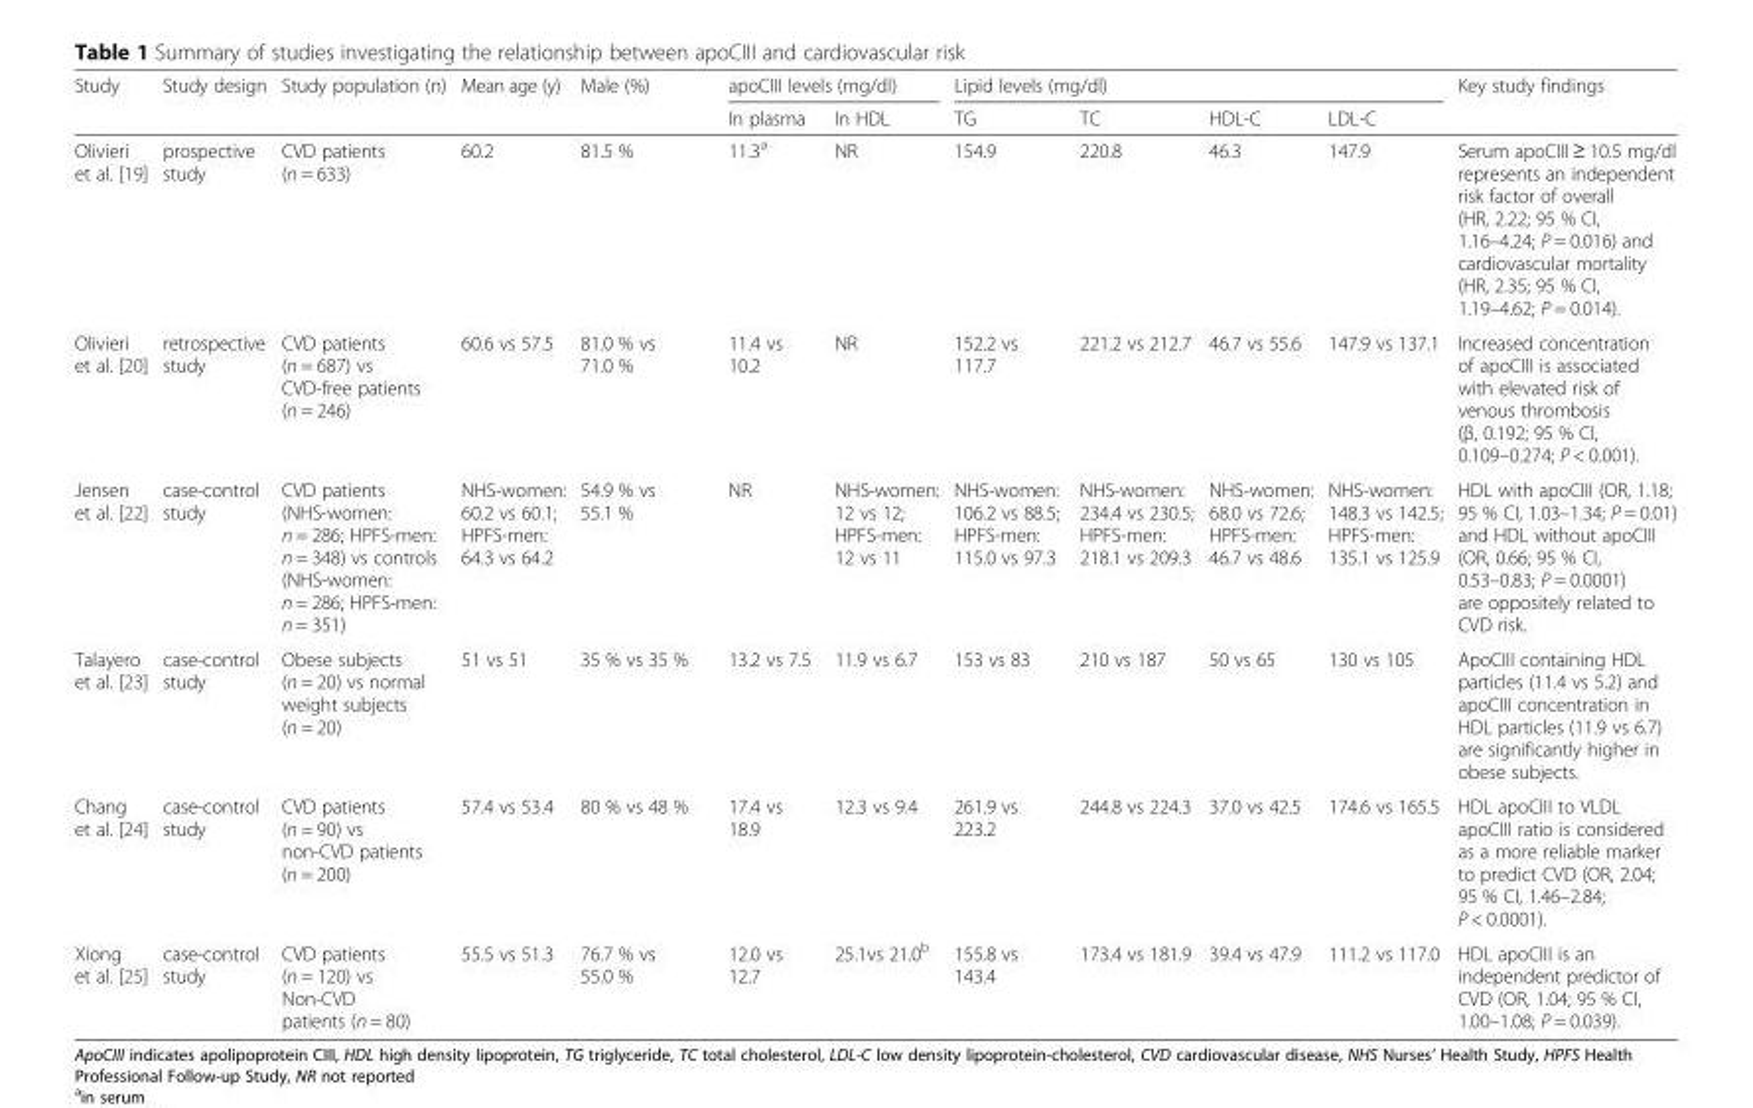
<table><thead><tr><td rowspan="2">Study</td><td rowspan="2">Study design</td><td rowspan="2">Study population (n)</td><td rowspan="2">Mean age (y)</td><td rowspan="2">Male (%)</td><td colspan="2">apoCIII levels (mg/dl)</td><td colspan="4">Lipid levels (mg/dl)</td><td rowspan="2">Key study findings</td></tr><tr><td>In plasma</td><td>In HDL</td><td>TG</td><td>TC</td><td>HDL-C</td><td>LDL-C</td></tr></thead><tbody><tr><td>Olivieri et al. [19]</td><td>prospective study</td><td>CVD patients (n = 633)</td><td>60.2</td><td>81.5 %</td><td>11.3<sup>a</sup></td><td>NR</td><td>154.9</td><td>220.8</td><td>46.3</td><td>147.9</td><td>Serum apoCIII ≥ 10.5 mg/dl represents an independent risk factor of overall (HR, 2.22; 95 % CI, 1.16–4.24; P = 0.016) and cardiovascular mortality (HR, 2.35; 95 % CI, 1.19–4.62; P = 0.014).</td></tr><tr><td>Olivieri et al. [20]</td><td>retrospective study</td><td>CVD patients (n = 687) vs CVD-free patients (n = 246)</td><td>60.6 vs 57.5</td><td>81.0 % vs 71.0 %</td><td>11.4 vs 10.2</td><td>NR</td><td>152.2 vs 117.7</td><td>221.2 vs 212.7</td><td>46.7 vs 55.6</td><td>147.9 vs 137.1</td><td>Increased concentration of apoCIII is associated with elevated risk of venous thrombosis (β, 0.192; 95 % CI, 0.109–0.274; P &lt; 0.001).</td></tr><tr><td>Jensen et al. [22]</td><td>case-control study</td><td>CVD patients (NHS-women: n = 286; HPFS-men: n = 348) vs controls (NHS-women: n = 286; HPFS-men: n = 351)</td><td>NHS-women: 60.2 vs 60.1; HPFS-men: 64.3 vs 64.2</td><td>54.9 % vs 55.1 %</td><td>NR</td><td>NHS-women: 12 vs 12; HPFS-men: 12 vs 11</td><td>NHS-women: 106.2 vs 88.5; HPFS-men: 115.0 vs 97.3</td><td>NHS-women: 234.4 vs 230.5; HPFS-men: 218.1 vs 209.3</td><td>NHS-women: 68.0 vs 72.6; HPFS-men: 46.7 vs 48.6</td><td>NHS-women: 148.3 vs 142.5; HPFS-men: 135.1 vs 125.9</td><td>HDL with apoCIII (OR, 1.18; 95 % CI, 1.03–1.34; P = 0.01) and HDL without apoCIII (OR, 0.66; 95 % CI, 0.53–0.83; P = 0.0001) are oppositely related to CVD risk.</td></tr><tr><td>Talayero et al. [23]</td><td>case-control study</td><td>Obese subjects (n = 20) vs normal weight subjects (n = 20)</td><td>51 vs 51</td><td>35 % vs 35 %</td><td>13.2 vs 7.5</td><td>11.9 vs 6.7</td><td>153 vs 83</td><td>210 vs 187</td><td>50 vs 65</td><td>130 vs 105</td><td>ApoCIII containing HDL particles (11.4 vs 5.2) and apoCIII concentration in HDL particles (11.9 vs 6.7) are significantly higher in obese subjects.</td></tr><tr><td>Chang et al. [24]</td><td>case-control study</td><td>CVD patients (n = 90) vs non-CVD patients (n = 200)</td><td>57.4 vs 53.4</td><td>80 % vs 48 %</td><td>17.4 vs 18.9</td><td>12.3 vs 9.4</td><td>261.9 vs 223.2</td><td>244.8 vs 224.3</td><td>37.0 vs 42.5</td><td>174.6 vs 165.5</td><td>HDL apoCIII to VLDL apoCIII ratio is considered as a more reliable marker to predict CVD (OR, 2.04; 95 % CI, 1.46–2.84; P &lt; 0.0001).</td></tr><tr><td>Xiong et al. [25]</td><td>case-control study</td><td>CVD patients (n = 120) vs Non-CVD patients (n = 80)</td><td>55.5 vs 51.3</td><td>76.7 % vs 55.0 %</td><td>12.0 vs 12.7</td><td>25.1vs 21.0<sup>b</sup></td><td>155.8 vs 143.4</td><td>173.4 vs 181.9</td><td>39.4 vs 47.9</td><td>111.2 vs 117.0</td><td>HDL apoCIII is an independent predictor of CVD (OR, 1.04; 95 % CI, 1.00–1.08; P = 0.039).</td></tr></tbody></table>